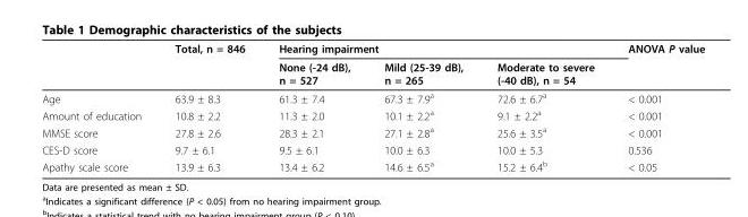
<table><thead><tr><td rowspan="2"></td><td rowspan="2">Total, n = 846</td><td colspan="3">Hearing impairment</td><td rowspan="2">ANOVA P value</td></tr><tr><td>None (-24 dB), n = 527</td><td>Mild (25-39 dB), n = 265</td><td>Moderate to severe (-40 dB), n = 54</td></tr></thead><tbody><tr><td>Age</td><td>63.9 ± 8.3</td><td>61.3 ± 7.4</td><td>67.3 ± 7.9<sup>a</sup></td><td>72.6 ± 6.7<sup>a</sup></td><td>&lt; 0.001</td></tr><tr><td>Amount of education</td><td>10.8 ± 2.2</td><td>11.3 ± 2.0</td><td>10.1 ± 2.2<sup>a</sup></td><td>9.1 ± 2.2<sup>a</sup></td><td>&lt; 0.001</td></tr><tr><td>MMSE score</td><td>27.8 ± 2.6</td><td>28.3 ± 2.1</td><td>27.1 ± 2.8<sup>a</sup></td><td>25.6 ± 3.5<sup>a</sup></td><td>&lt; 0.001</td></tr><tr><td>CES-D score</td><td>9.7 ± 6.1</td><td>9.5 ± 6.1</td><td>10.0 ± 6.3</td><td>10.0 ± 5.3</td><td>0.536</td></tr><tr><td>Apathy scale score</td><td>13.9 ± 6.3</td><td>13.4 ± 6.2</td><td>14.6 ± 6.5<sup>a</sup></td><td>15.2 ± 6.4<sup>b</sup></td><td>&lt; 0.05</td></tr></tbody></table>